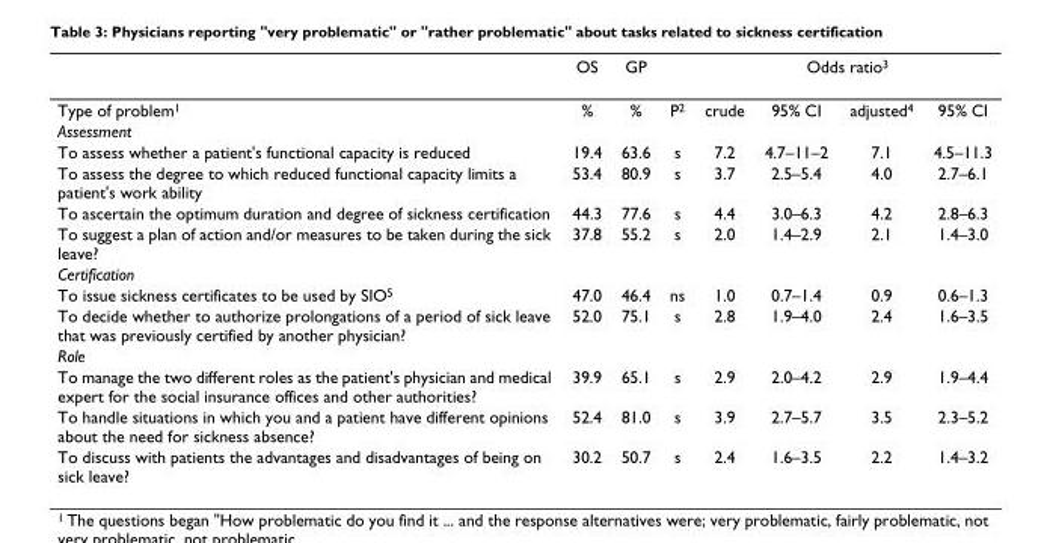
<table><thead><tr><td rowspan="2">Type of problem<sup>1</sup></td><td rowspan="2">OS %</td><td rowspan="2">GP %</td><td rowspan="2">P<sup>2</sup></td><td colspan="4">Odds ratio<sup>3</sup></td></tr><tr><td>crude</td><td>95% CI</td><td>adjusted<sup>4</sup></td><td>95% CI</td></tr></thead><tbody><tr><td colspan="8">Assessment</td></tr><tr><td>To assess whether a patient&#x27;s functional capacity is reduced</td><td>19.4</td><td>63.6</td><td>s</td><td>7.2</td><td>4.7–11–2</td><td>7.1</td><td>4.5–11.3</td></tr><tr><td>To assess the degree to which reduced functional capacity limits a patient&#x27;s work ability</td><td>53.4</td><td>80.9</td><td>s</td><td>3.7</td><td>2.5–5.4</td><td>4.0</td><td>2.7–6.1</td></tr><tr><td>To ascertain the optimum duration and degree of sickness certification</td><td>44.3</td><td>77.6</td><td>s</td><td>4.4</td><td>3.0–6.3</td><td>4.2</td><td>2.8–6.3</td></tr><tr><td>To suggest a plan of action and/or measures to be taken during the sick leave?</td><td>37.8</td><td>55.2</td><td>s</td><td>2.0</td><td>1.4–2.9</td><td>2.1</td><td>1.4–3.0</td></tr><tr><td colspan="8">Certification</td></tr><tr><td>To issue sickness certificates to be used by SIO<sup>5</sup></td><td>47.0</td><td>46.4</td><td>ns</td><td>1.0</td><td>0.7–1.4</td><td>0.9</td><td>0.6–1.3</td></tr><tr><td>To decide whether to authorize prolongations of a period of sick leave that was previously certified by another physician?</td><td>52.0</td><td>75.1</td><td>s</td><td>2.8</td><td>1.9–4.0</td><td>2.4</td><td>1.6–3.5</td></tr><tr><td colspan="8">Role</td></tr><tr><td>To manage the two different roles as the patient&#x27;s physician and medical expert for the social insurance offices and other authorities?</td><td>39.9</td><td>65.1</td><td>s</td><td>2.9</td><td>2.0–4.2</td><td>2.9</td><td>1.9–4.4</td></tr><tr><td>To handle situations in which you and a patient have different opinions about the need for sickness absence?</td><td>52.4</td><td>81.0</td><td>s</td><td>3.9</td><td>2.7–5.7</td><td>3.5</td><td>2.3–5.2</td></tr><tr><td>To discuss with patients the advantages and disadvantages of being on sick leave?</td><td>30.2</td><td>50.7</td><td>s</td><td>2.4</td><td>1.6–3.5</td><td>2.2</td><td>1.4–3.2</td></tr></tbody></table>